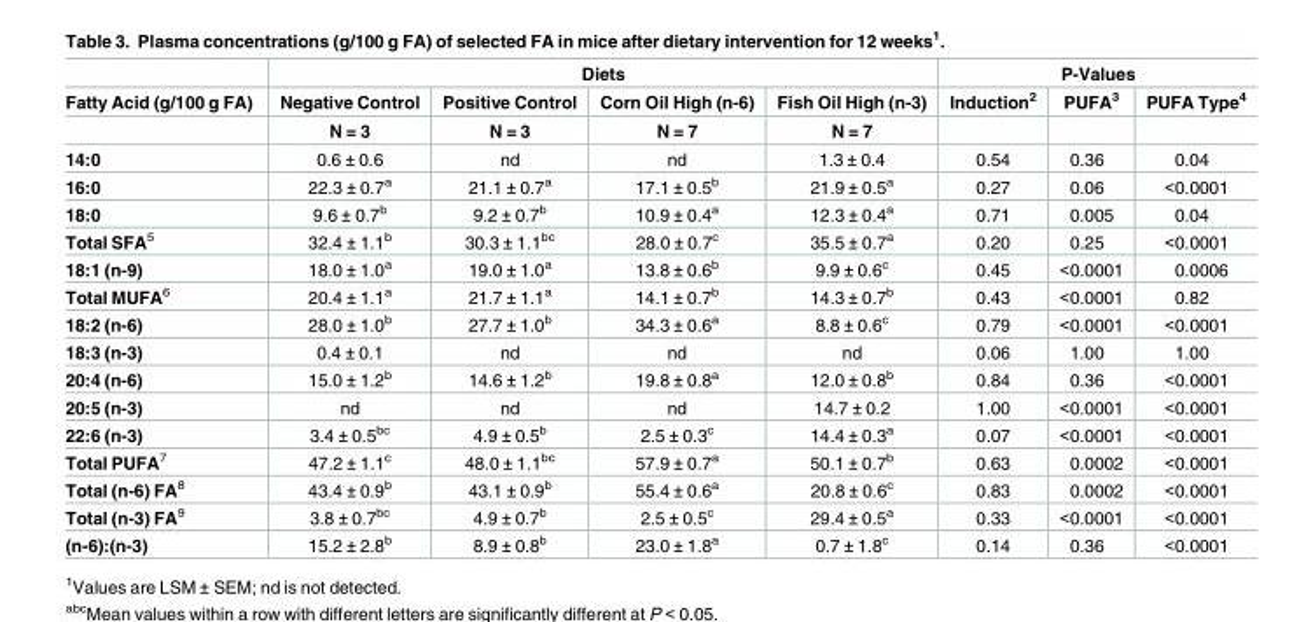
<table><thead><tr><td rowspan="3">Fatty Acid (g/100 g FA)</td><td colspan="4">Diets</td><td colspan="3">P-Values</td></tr><tr><td rowspan="2">Negative Control N = 3</td><td rowspan="2">Positive Control N = 3</td><td rowspan="2">Corn Oil High (n-6) N = 7</td><td rowspan="2">Fish Oil High (n-3) N = 7</td><td rowspan="2">Induction<sup>2</sup></td><td rowspan="2">PUFA<sup>3</sup></td><td rowspan="2">PUFA Type<sup>4</sup></td></tr><tr></tr></thead><tbody><tr><td>14:0</td><td>0.6 ± 0.6</td><td>nd</td><td>nd</td><td>1.3 ± 0.4</td><td>0.54</td><td>0.36</td><td>0.04</td></tr><tr><td>16:0</td><td>22.3 ± 0.7<sup>a</sup></td><td>21.1 ± 0.7<sup>a</sup></td><td>17.1 ± 0.5<sup>b</sup></td><td>21.9 ± 0.5<sup>a</sup></td><td>0.27</td><td>0.06</td><td>&lt;0.0001</td></tr><tr><td>18:0</td><td>9.6 ± 0.7<sup>b</sup></td><td>9.2 ± 0.7<sup>b</sup></td><td>10.9 ± 0.4<sup>a</sup></td><td>12.3 ± 0.4<sup>a</sup></td><td>0.71</td><td>0.005</td><td>0.04</td></tr><tr><td>Total SFA<sup>5</sup></td><td>32.4 ± 1.1<sup>b</sup></td><td>30.3 ± 1.1<sup>bc</sup></td><td>28.0 ± 0.7<sup>c</sup></td><td>35.5 ± 0.7<sup>a</sup></td><td>0.20</td><td>0.25</td><td>&lt;0.0001</td></tr><tr><td>18:1 (n-9)</td><td>18.0 ± 1.0<sup>a</sup></td><td>19.0 ± 1.0<sup>a</sup></td><td>13.8 ± 0.6<sup>b</sup></td><td>9.9 ± 0.6<sup>c</sup></td><td>0.45</td><td>&lt;0.0001</td><td>0.0006</td></tr><tr><td>Total MUFA<sup>6</sup></td><td>20.4 ± 1.1<sup>a</sup></td><td>21.7 ± 1.1<sup>a</sup></td><td>14.1 ± 0.7<sup>b</sup></td><td>14.3 ± 0.7<sup>b</sup></td><td>0.43</td><td>&lt;0.0001</td><td>0.82</td></tr><tr><td>18:2 (n-6)</td><td>28.0 ± 1.0<sup>b</sup></td><td>27.7 ± 1.0<sup>b</sup></td><td>34.3 ± 0.6<sup>a</sup></td><td>8.8 ± 0.6<sup>c</sup></td><td>0.79</td><td>&lt;0.0001</td><td>&lt;0.0001</td></tr><tr><td>18:3 (n-3)</td><td>0.4 ± 0.1</td><td>nd</td><td>nd</td><td>nd</td><td>0.06</td><td>1.00</td><td>1.00</td></tr><tr><td>20:4 (n-6)</td><td>15.0 ± 1.2<sup>b</sup></td><td>14.6 ± 1.2<sup>b</sup></td><td>19.8 ± 0.8<sup>a</sup></td><td>12.0 ± 0.8<sup>b</sup></td><td>0.84</td><td>0.36</td><td>&lt;0.0001</td></tr><tr><td>20:5 (n-3)</td><td>nd</td><td>nd</td><td>nd</td><td>14.7 ± 0.2</td><td>1.00</td><td>&lt;0.0001</td><td>&lt;0.0001</td></tr><tr><td>22:6 (n-3)</td><td>3.4 ± 0.5<sup>bc</sup></td><td>4.9 ± 0.5<sup>b</sup></td><td>2.5 ± 0.3<sup>c</sup></td><td>14.4 ± 0.3<sup>a</sup></td><td>0.07</td><td>&lt;0.0001</td><td>&lt;0.0001</td></tr><tr><td>Total PUFA<sup>7</sup></td><td>47.2 ± 1.1<sup>c</sup></td><td>48.0 ± 1.1<sup>bc</sup></td><td>57.9 ± 0.7<sup>a</sup></td><td>50.1 ± 0.7<sup>b</sup></td><td>0.63</td><td>0.0002</td><td>&lt;0.0001</td></tr><tr><td>Total (n-6) FA<sup>8</sup></td><td>43.4 ± 0.9<sup>b</sup></td><td>43.1 ± 0.9<sup>b</sup></td><td>55.4 ± 0.6<sup>a</sup></td><td>20.8 ± 0.6<sup>c</sup></td><td>0.83</td><td>0.0002</td><td>&lt;0.0001</td></tr><tr><td>Total (n-3) FA<sup>9</sup></td><td>3.8 ± 0.7<sup>bc</sup></td><td>4.9 ± 0.7<sup>b</sup></td><td>2.5 ± 0.5<sup>c</sup></td><td>29.4 ± 0.5<sup>a</sup></td><td>0.33</td><td>&lt;0.0001</td><td>&lt;0.0001</td></tr><tr><td>(n-6):(n-3)</td><td>15.2 ± 2.8<sup>b</sup></td><td>8.9 ± 0.8<sup>b</sup></td><td>23.0 ± 1.8<sup>a</sup></td><td>0.7 ± 1.8<sup>c</sup></td><td>0.14</td><td>0.36</td><td>&lt;0.0001</td></tr></tbody></table>